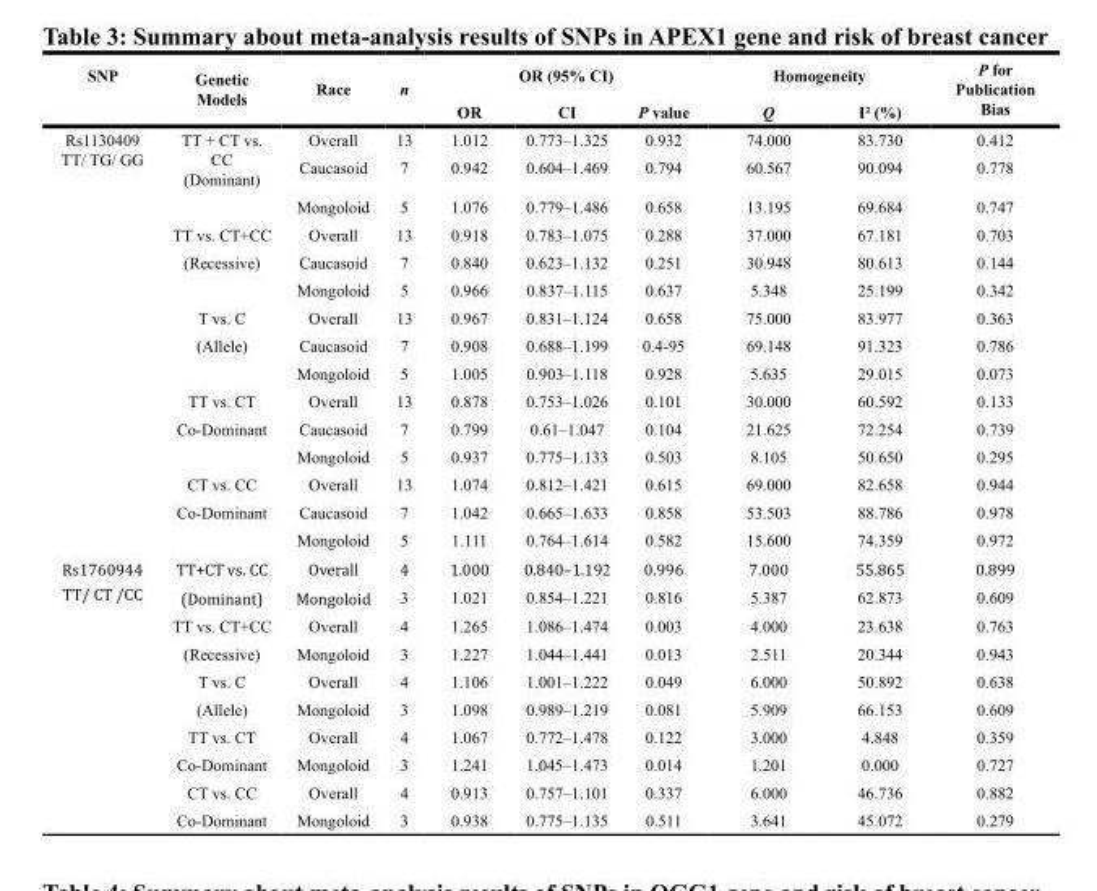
<table><thead><tr><td rowspan="2">SNP</td><td rowspan="2">Genetic Models</td><td rowspan="2">Race</td><td rowspan="2">n</td><td colspan="3">OR (95% CI)</td><td colspan="2">Homogeneity</td><td rowspan="2">P for Publication Bias</td></tr><tr><td>OR</td><td>CI</td><td>P value</td><td>Q</td><td>I² (%)</td></tr></thead><tbody><tr><td rowspan="15">Rs1130409 TT/ TG/ GG</td><td rowspan="2">TT + CT vs. CC (Dominant)</td><td>Overall</td><td>13</td><td>1.012</td><td>0.773–1.325</td><td>0.932</td><td>74.000</td><td>83.730</td><td>0.412</td></tr><tr><td>Caucasoid</td><td>7</td><td>0.942</td><td>0.604–1.469</td><td>0.794</td><td>60.567</td><td>90.094</td><td>0.778</td></tr><tr><td></td><td>Mongoloid</td><td>5</td><td>1.076</td><td>0.779–1.486</td><td>0.658</td><td>13.195</td><td>69.684</td><td>0.747</td></tr><tr><td>TT vs. CT+CC</td><td>Overall</td><td>13</td><td>0.918</td><td>0.783–1.075</td><td>0.288</td><td>37.000</td><td>67.181</td><td>0.703</td></tr><tr><td>(Recessive)</td><td>Caucasoid</td><td>7</td><td>0.840</td><td>0.623–1.132</td><td>0.251</td><td>30.948</td><td>80.613</td><td>0.144</td></tr><tr><td></td><td>Mongoloid</td><td>5</td><td>0.966</td><td>0.837–1.115</td><td>0.637</td><td>5.348</td><td>25.199</td><td>0.342</td></tr><tr><td>T vs. C</td><td>Overall</td><td>13</td><td>0.967</td><td>0.831–1.124</td><td>0.658</td><td>75.000</td><td>83.977</td><td>0.363</td></tr><tr><td>(Allele)</td><td>Caucasoid</td><td>7</td><td>0.908</td><td>0.688–1.199</td><td>0.4-95</td><td>69.148</td><td>91.323</td><td>0.786</td></tr><tr><td></td><td>Mongoloid</td><td>5</td><td>1.005</td><td>0.903–1.118</td><td>0.928</td><td>5.635</td><td>29.015</td><td>0.073</td></tr><tr><td>TT vs. CT</td><td>Overall</td><td>13</td><td>0.878</td><td>0.753–1.026</td><td>0.101</td><td>30.000</td><td>60.592</td><td>0.133</td></tr><tr><td>Co-Dominant</td><td>Caucasoid</td><td>7</td><td>0.799</td><td>0.61–1.047</td><td>0.104</td><td>21.625</td><td>72.254</td><td>0.739</td></tr><tr><td></td><td>Mongoloid</td><td>5</td><td>0.937</td><td>0.775–1.133</td><td>0.503</td><td>8.105</td><td>50.650</td><td>0.295</td></tr><tr><td>CT vs. CC</td><td>Overall</td><td>13</td><td>1.074</td><td>0.812–1.421</td><td>0.615</td><td>69.000</td><td>82.658</td><td>0.944</td></tr><tr><td>Co-Dominant</td><td>Caucasoid</td><td>7</td><td>1.042</td><td>0.665–1.633</td><td>0.858</td><td>53.503</td><td>88.786</td><td>0.978</td></tr><tr><td></td><td>Mongoloid</td><td>5</td><td>1.111</td><td>0.764–1.614</td><td>0.582</td><td>15.600</td><td>74.359</td><td>0.972</td></tr><tr><td rowspan="10">Rs1760944 TT/ CT /CC</td><td>TT+CT vs. CC</td><td>Overall</td><td>4</td><td>1.000</td><td>0.840–1.192</td><td>0.996</td><td>7.000</td><td>55.865</td><td>0.899</td></tr><tr><td>(Dominant)</td><td>Mongoloid</td><td>3</td><td>1.021</td><td>0.854–1.221</td><td>0.816</td><td>5.387</td><td>62.873</td><td>0.609</td></tr><tr><td>TT vs. CT+CC</td><td>Overall</td><td>4</td><td>1.265</td><td>1.086–1.474</td><td>0.003</td><td>4.000</td><td>23.638</td><td>0.763</td></tr><tr><td>(Recessive)</td><td>Mongoloid</td><td>3</td><td>1.227</td><td>1.044–1.441</td><td>0.013</td><td>2.511</td><td>20.344</td><td>0.943</td></tr><tr><td>T vs. C</td><td>Overall</td><td>4</td><td>1.106</td><td>1.001–1.222</td><td>0.049</td><td>6.000</td><td>50.892</td><td>0.638</td></tr><tr><td>(Allele)</td><td>Mongoloid</td><td>3</td><td>1.098</td><td>0.989–1.219</td><td>0.081</td><td>5.909</td><td>66.153</td><td>0.609</td></tr><tr><td>TT vs. CT</td><td>Overall</td><td>4</td><td>1.067</td><td>0.772–1.478</td><td>0.122</td><td>3.000</td><td>4.848</td><td>0.359</td></tr><tr><td>Co-Dominant</td><td>Mongoloid</td><td>3</td><td>1.241</td><td>1.045–1.473</td><td>0.014</td><td>1.201</td><td>0.000</td><td>0.727</td></tr><tr><td>CT vs. CC</td><td>Overall</td><td>4</td><td>0.913</td><td>0.757–1.101</td><td>0.337</td><td>6.000</td><td>46.736</td><td>0.882</td></tr><tr><td>Co-Dominant</td><td>Mongoloid</td><td>3</td><td>0.938</td><td>0.775–1.135</td><td>0.511</td><td>3.641</td><td>45.072</td><td>0.279</td></tr></tbody></table>